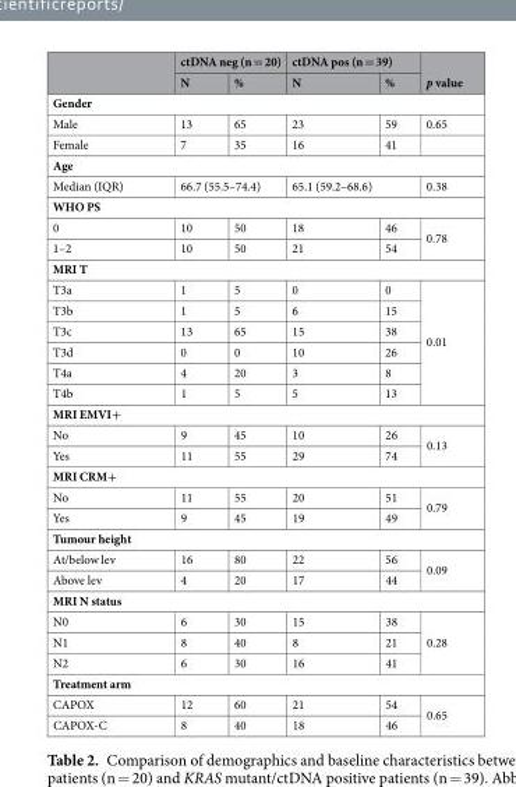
<table><thead><tr><td rowspan="2"></td><td colspan="2">ctDNA neg (n = 20)</td><td colspan="2">ctDNA pos (n = 39)</td><td rowspan="2">p value</td></tr><tr><td>N</td><td>%</td><td>N</td><td>%</td></tr></thead><tbody><tr><td colspan="6">Gender</td></tr><tr><td>Male</td><td>13</td><td>65</td><td>23</td><td>59</td><td>0.65</td></tr><tr><td>Female</td><td>7</td><td>35</td><td>16</td><td>41</td><td></td></tr><tr><td colspan="6">Age</td></tr><tr><td>Median (IQR)</td><td colspan="2">66.7 (55.5–74.4)</td><td colspan="2">65.1 (59.2–68.6)</td><td>0.38</td></tr><tr><td colspan="6">WHO PS</td></tr><tr><td>0</td><td>10</td><td>50</td><td>18</td><td>46</td><td rowspan="2">0.78</td></tr><tr><td>1–2</td><td>10</td><td>50</td><td>21</td><td>54</td></tr><tr><td colspan="6">MRI T</td></tr><tr><td>T3a</td><td>1</td><td>5</td><td>0</td><td>0</td><td rowspan="6">0.01</td></tr><tr><td>T3b</td><td>1</td><td>5</td><td>6</td><td>15</td></tr><tr><td>T3c</td><td>13</td><td>65</td><td>15</td><td>38</td></tr><tr><td>T3d</td><td>0</td><td>0</td><td>10</td><td>26</td></tr><tr><td>T4a</td><td>4</td><td>20</td><td>3</td><td>8</td></tr><tr><td>T4b</td><td>1</td><td>5</td><td>5</td><td>13</td></tr><tr><td colspan="6">MRI EMVI+</td></tr><tr><td>No</td><td>9</td><td>45</td><td>10</td><td>26</td><td rowspan="2">0.13</td></tr><tr><td>Yes</td><td>11</td><td>55</td><td>29</td><td>74</td></tr><tr><td colspan="6">MRI CRM+</td></tr><tr><td>No</td><td>11</td><td>55</td><td>20</td><td>51</td><td rowspan="2">0.79</td></tr><tr><td>Yes</td><td>9</td><td>45</td><td>19</td><td>49</td></tr><tr><td colspan="6">Tumour height</td></tr><tr><td>At/below lev</td><td>16</td><td>80</td><td>22</td><td>56</td><td rowspan="2">0.09</td></tr><tr><td>Above lev</td><td>4</td><td>20</td><td>17</td><td>44</td></tr><tr><td colspan="6">MRI N status</td></tr><tr><td>N0</td><td>6</td><td>30</td><td>15</td><td>38</td><td rowspan="3">0.28</td></tr><tr><td>N1</td><td>8</td><td>40</td><td>8</td><td>21</td></tr><tr><td>N2</td><td>6</td><td>30</td><td>16</td><td>41</td></tr><tr><td colspan="6">Treatment arm</td></tr><tr><td>CAPOX</td><td>12</td><td>60</td><td>21</td><td>54</td><td rowspan="2">0.65</td></tr><tr><td>CAPOX-C</td><td>8</td><td>40</td><td>18</td><td>46</td></tr></tbody></table>